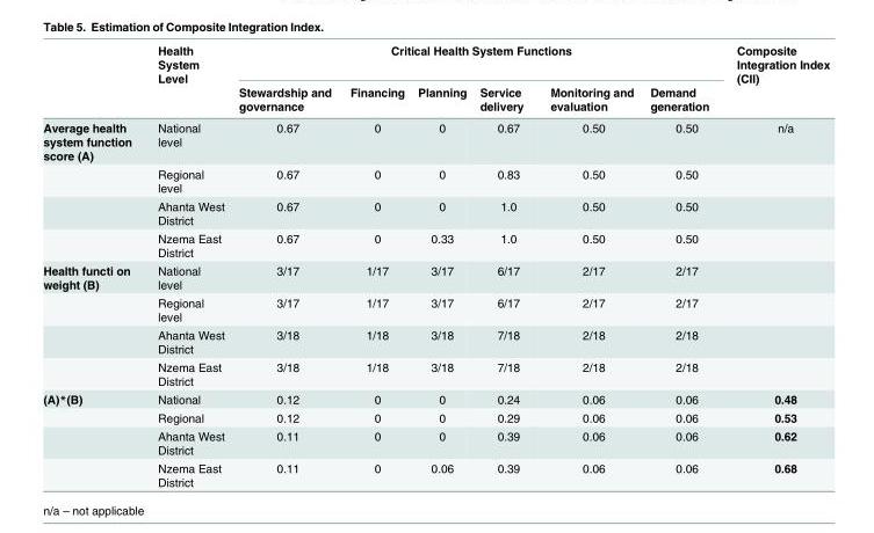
<table><thead><tr><td rowspan="2"></td><td rowspan="2">Health System Level</td><td colspan="6">Critical Health System Functions</td><td rowspan="2">Composite Integration Index (CII)</td></tr><tr><td>Stewardship and governance</td><td>Financing</td><td>Planning</td><td>Service delivery</td><td>Monitoring and evaluation</td><td>Demand generation</td></tr></thead><tbody><tr><td rowspan="4">Average health system function score (A)</td><td>National level</td><td>0.67</td><td>0</td><td>0</td><td>0.67</td><td>0.50</td><td>0.50</td><td>n/a</td></tr><tr><td>Regional level</td><td>0.67</td><td>0</td><td>0</td><td>0.83</td><td>0.50</td><td>0.50</td><td></td></tr><tr><td>Ahanta West District</td><td>0.67</td><td>0</td><td>0</td><td>1.0</td><td>0.50</td><td>0.50</td><td></td></tr><tr><td>Nzema East District</td><td>0.67</td><td>0</td><td>0.33</td><td>1.0</td><td>0.50</td><td>0.50</td><td></td></tr><tr><td rowspan="4">Health functi on weight (B)</td><td>National level</td><td>3/17</td><td>1/17</td><td>3/17</td><td>6/17</td><td>2/17</td><td>2/17</td><td></td></tr><tr><td>Regional level</td><td>3/17</td><td>1/17</td><td>3/17</td><td>6/17</td><td>2/17</td><td>2/17</td><td></td></tr><tr><td>Ahanta West District</td><td>3/18</td><td>1/18</td><td>3/18</td><td>7/18</td><td>2/18</td><td>2/18</td><td></td></tr><tr><td>Nzema East District</td><td>3/18</td><td>1/18</td><td>3/18</td><td>7/18</td><td>2/18</td><td>2/18</td><td></td></tr><tr><td rowspan="4">(A)*(B)</td><td>National</td><td>0.12</td><td>0</td><td>0</td><td>0.24</td><td>0.06</td><td>0.06</td><td>0.48</td></tr><tr><td>Regional</td><td>0.12</td><td>0</td><td>0</td><td>0.29</td><td>0.06</td><td>0.06</td><td>0.53</td></tr><tr><td>Ahanta West District</td><td>0.11</td><td>0</td><td>0</td><td>0.39</td><td>0.06</td><td>0.06</td><td>0.62</td></tr><tr><td>Nzema East District</td><td>0.11</td><td>0</td><td>0.06</td><td>0.39</td><td>0.06</td><td>0.06</td><td>0.68</td></tr></tbody></table>